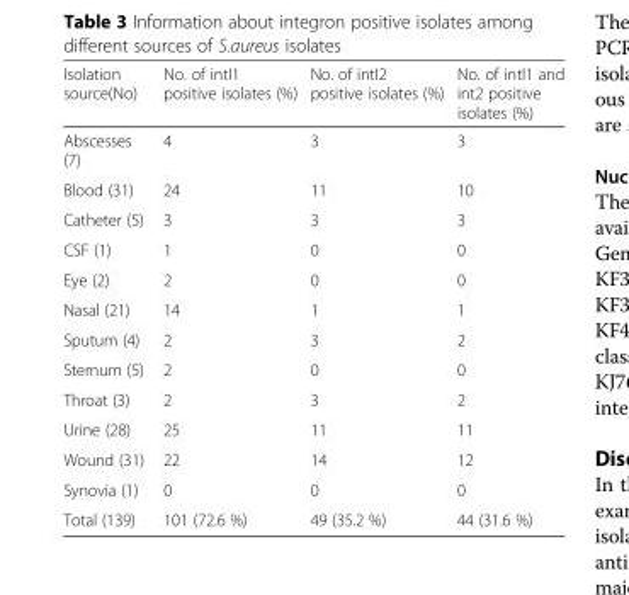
<table><thead><tr><td>Isolation source(No)</td><td>No. of intI1 positive isolates (%)</td><td>No. of intI2 positive isolates (%)</td><td>No. of intI1 and int2 positive isolates (%)</td></tr></thead><tbody><tr><td>Abscesses (7)</td><td>4</td><td>3</td><td>3</td></tr><tr><td>Blood (31)</td><td>24</td><td>11</td><td>10</td></tr><tr><td>Catheter (5)</td><td>3</td><td>3</td><td>3</td></tr><tr><td>CSF (1)</td><td>1</td><td>0</td><td>0</td></tr><tr><td>Eye (2)</td><td>2</td><td>0</td><td>0</td></tr><tr><td>Nasal (21)</td><td>14</td><td>1</td><td>1</td></tr><tr><td>Sputum (4)</td><td>2</td><td>3</td><td>2</td></tr><tr><td>Sternum (5)</td><td>2</td><td>0</td><td>0</td></tr><tr><td>Throat (3)</td><td>2</td><td>3</td><td>2</td></tr><tr><td>Urine (28)</td><td>25</td><td>11</td><td>11</td></tr><tr><td>Wound (31)</td><td>22</td><td>14</td><td>12</td></tr><tr><td>Synovia (1)</td><td>0</td><td>0</td><td>0</td></tr><tr><td>Total (139)</td><td>101 (72.6 %)</td><td>49 (35.2 %)</td><td>44 (31.6 %)</td></tr></tbody></table>